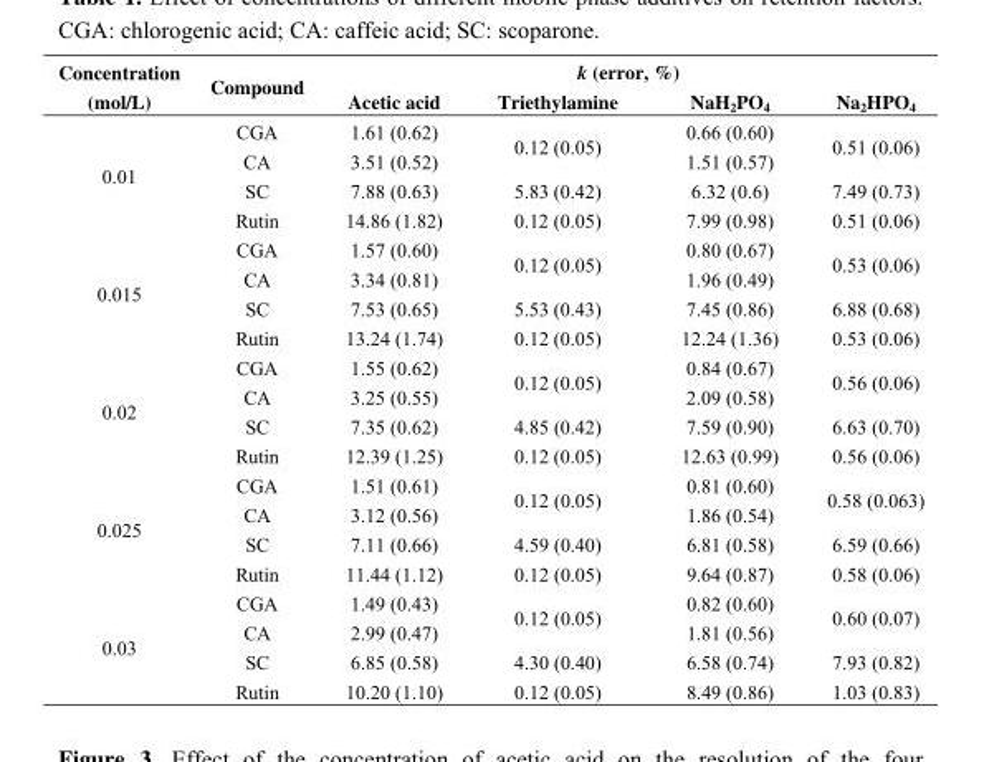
<table><thead><tr><td rowspan="2">Concentration (mol/L)</td><td rowspan="2">Compound</td><td colspan="4">k (error, %)</td></tr><tr><td>Acetic acid</td><td>Triethylamine</td><td>NaH<sub>2</sub>PO<sub>4</sub></td><td>Na<sub>2</sub>HPO<sub>4</sub></td></tr></thead><tbody><tr><td rowspan="4">0.01</td><td>CGA</td><td>1.61 (0.62)</td><td rowspan="2">0.12 (0.05)</td><td>0.66 (0.60)</td><td rowspan="2">0.51 (0.06)</td></tr><tr><td>CA</td><td>3.51 (0.52)</td><td>1.51 (0.57)</td></tr><tr><td>SC</td><td>7.88 (0.63)</td><td>5.83 (0.42)</td><td>6.32 (0.6)</td><td>7.49 (0.73)</td></tr><tr><td>Rutin</td><td>14.86 (1.82)</td><td>0.12 (0.05)</td><td>7.99 (0.98)</td><td>0.51 (0.06)</td></tr><tr><td rowspan="4">0.015</td><td>CGA</td><td>1.57 (0.60)</td><td rowspan="2">0.12 (0.05)</td><td>0.80 (0.67)</td><td rowspan="2">0.53 (0.06)</td></tr><tr><td>CA</td><td>3.34 (0.81)</td><td>1.96 (0.49)</td></tr><tr><td>SC</td><td>7.53 (0.65)</td><td>5.53 (0.43)</td><td>7.45 (0.86)</td><td>6.88 (0.68)</td></tr><tr><td>Rutin</td><td>13.24 (1.74)</td><td>0.12 (0.05)</td><td>12.24 (1.36)</td><td>0.53 (0.06)</td></tr><tr><td rowspan="4">0.02</td><td>CGA</td><td>1.55 (0.62)</td><td rowspan="2">0.12 (0.05)</td><td>0.84 (0.67)</td><td rowspan="2">0.56 (0.06)</td></tr><tr><td>CA</td><td>3.25 (0.55)</td><td>2.09 (0.58)</td></tr><tr><td>SC</td><td>7.35 (0.62)</td><td>4.85 (0.42)</td><td>7.59 (0.90)</td><td>6.63 (0.70)</td></tr><tr><td>Rutin</td><td>12.39 (1.25)</td><td>0.12 (0.05)</td><td>12.63 (0.99)</td><td>0.56 (0.06)</td></tr><tr><td rowspan="4">0.025</td><td>CGA</td><td>1.51 (0.61)</td><td rowspan="2">0.12 (0.05)</td><td>0.81 (0.60)</td><td rowspan="2">0.58 (0.063)</td></tr><tr><td>CA</td><td>3.12 (0.56)</td><td>1.86 (0.54)</td></tr><tr><td>SC</td><td>7.11 (0.66)</td><td>4.59 (0.40)</td><td>6.81 (0.58)</td><td>6.59 (0.66)</td></tr><tr><td>Rutin</td><td>11.44 (1.12)</td><td>0.12 (0.05)</td><td>9.64 (0.87)</td><td>0.58 (0.06)</td></tr><tr><td rowspan="4">0.03</td><td>CGA</td><td>1.49 (0.43)</td><td rowspan="2">0.12 (0.05)</td><td>0.82 (0.60)</td><td rowspan="2">0.60 (0.07)</td></tr><tr><td>CA</td><td>2.99 (0.47)</td><td>1.81 (0.56)</td></tr><tr><td>SC</td><td>6.85 (0.58)</td><td>4.30 (0.40)</td><td>6.58 (0.74)</td><td>7.93 (0.82)</td></tr><tr><td>Rutin</td><td>10.20 (1.10)</td><td>0.12 (0.05)</td><td>8.49 (0.86)</td><td>1.03 (0.83)</td></tr></tbody></table>